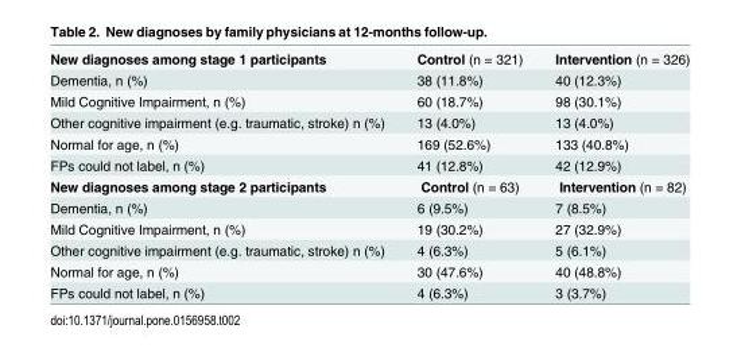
<table><tbody><tr><td>New diagnoses among stage 1 participants</td><td>Control (n = 321)</td><td>Intervention (n = 326)</td></tr><tr><td>Dementia, n (%)</td><td>38 (11.8%)</td><td>40 (12.3%)</td></tr><tr><td>Mild Cognitive Impairment, n (%)</td><td>60 (18.7%)</td><td>98 (30.1%)</td></tr><tr><td>Other cognitive impairment (e.g. traumatic, stroke) n (%)</td><td>13 (4.0%)</td><td>13 (4.0%)</td></tr><tr><td>Normal for age, n (%)</td><td>169 (52.6%)</td><td>133 (40.8%)</td></tr><tr><td>FPs could not label, n (%)</td><td>41 (12.8%)</td><td>42 (12.9%)</td></tr><tr><td>New diagnoses among stage 2 participants</td><td>Control (n = 63)</td><td>Intervention (n = 82)</td></tr><tr><td>Dementia, n (%)</td><td>6 (9.5%)</td><td>7 (8.5%)</td></tr><tr><td>Mild Cognitive Impairment, n (%)</td><td>19 (30.2%)</td><td>27 (32.9%)</td></tr><tr><td>Other cognitive impairment (e.g. traumatic, stroke) n (%)</td><td>4 (6.3%)</td><td>5 (6.1%)</td></tr><tr><td>Normal for age, n (%)</td><td>30 (47.6%)</td><td>40 (48.8%)</td></tr><tr><td>FPs could not label, n (%)</td><td>4 (6.3%)</td><td>3 (3.7%)</td></tr></tbody></table>